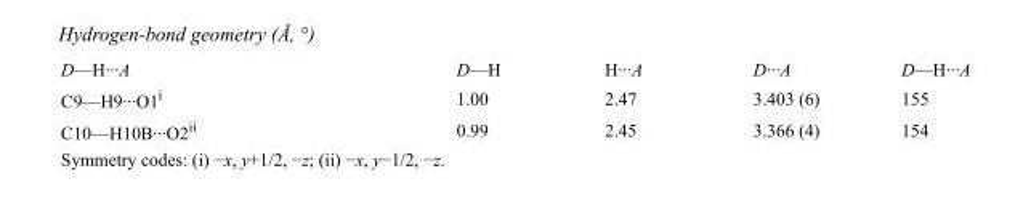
<table><tbody><tr><td>D—H···A</td><td>D—H</td><td>H···A</td><td>D···A</td><td>D—H···A</td></tr><tr><td>C9—H9···O1<sup>i</sup></td><td>1.00</td><td>2.47</td><td>3.403 (6)</td><td>155</td></tr><tr><td>C10—H10B···O2<sup>ii</sup></td><td>0.99</td><td>2.45</td><td>3.366 (4)</td><td>154</td></tr></tbody></table>